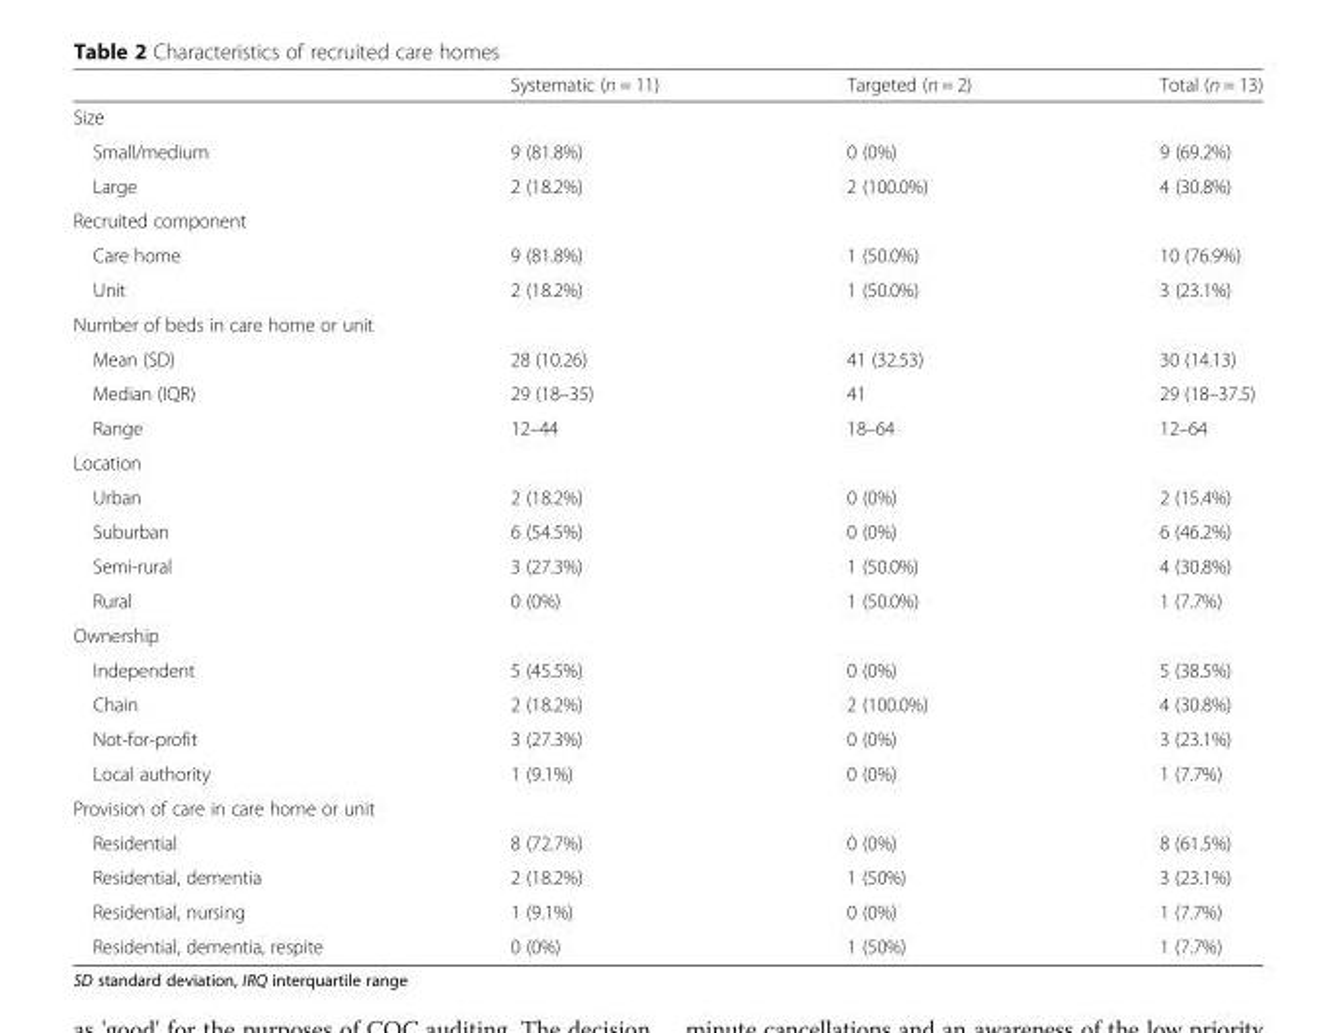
<table><thead><tr><td></td><td>Systematic (n = 11)</td><td>Targeted (n = 2)</td><td>Total (n = 13)</td></tr></thead><tbody><tr><td colspan="4">Size</td></tr><tr><td>Small/medium</td><td>9 (81.8%)</td><td>0 (0%)</td><td>9 (69.2%)</td></tr><tr><td>Large</td><td>2 (18.2%)</td><td>2 (100.0%)</td><td>4 (30.8%)</td></tr><tr><td colspan="4">Recruited component</td></tr><tr><td>Care home</td><td>9 (81.8%)</td><td>1 (50.0%)</td><td>10 (76.9%)</td></tr><tr><td>Unit</td><td>2 (18.2%)</td><td>1 (50.0%)</td><td>3 (23.1%)</td></tr><tr><td colspan="4">Number of beds in care home or unit</td></tr><tr><td>Mean (SD)</td><td>28 (10.26)</td><td>41 (32.53)</td><td>30 (14.13)</td></tr><tr><td>Median (IQR)</td><td>29 (18–35)</td><td>41</td><td>29 (18–37.5)</td></tr><tr><td>Range</td><td>12–44</td><td>18–64</td><td>12–64</td></tr><tr><td colspan="4">Location</td></tr><tr><td>Urban</td><td>2 (18.2%)</td><td>0 (0%)</td><td>2 (15.4%)</td></tr><tr><td>Suburban</td><td>6 (54.5%)</td><td>0 (0%)</td><td>6 (46.2%)</td></tr><tr><td>Semi-rural</td><td>3 (27.3%)</td><td>1 (50.0%)</td><td>4 (30.8%)</td></tr><tr><td>Rural</td><td>0 (0%)</td><td>1 (50.0%)</td><td>1 (7.7%)</td></tr><tr><td colspan="4">Ownership</td></tr><tr><td>Independent</td><td>5 (45.5%)</td><td>0 (0%)</td><td>5 (38.5%)</td></tr><tr><td>Chain</td><td>2 (18.2%)</td><td>2 (100.0%)</td><td>4 (30.8%)</td></tr><tr><td>Not-for-profit</td><td>3 (27.3%)</td><td>0 (0%)</td><td>3 (23.1%)</td></tr><tr><td>Local authority</td><td>1 (9.1%)</td><td>0 (0%)</td><td>1 (7.7%)</td></tr><tr><td colspan="4">Provision of care in care home or unit</td></tr><tr><td>Residential</td><td>8 (72.7%)</td><td>0 (0%)</td><td>8 (61.5%)</td></tr><tr><td>Residential, dementia</td><td>2 (18.2%)</td><td>1 (50%)</td><td>3 (23.1%)</td></tr><tr><td>Residential, nursing</td><td>1 (9.1%)</td><td>0 (0%)</td><td>1 (7.7%)</td></tr><tr><td>Residential, dementia, respite</td><td>0 (0%)</td><td>1 (50%)</td><td>1 (7.7%)</td></tr></tbody></table>